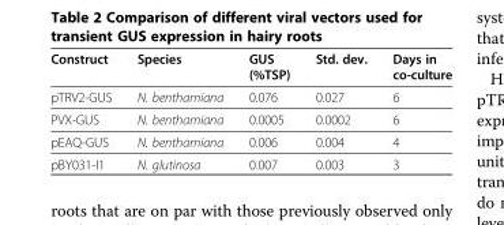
<table><thead><tr><td>Construct</td><td>Species</td><td>GUS (%TSP)</td><td>Std. dev.</td><td>Days in co-culture</td></tr></thead><tbody><tr><td>pTRV2-GUS</td><td>N. benthamiana</td><td>0.076</td><td>0.027</td><td>6</td></tr><tr><td>PVX-GUS</td><td>N. benthamiana</td><td>0.0005</td><td>0.0002</td><td>6</td></tr><tr><td>pEAQ-GUS</td><td>N. benthamiana</td><td>0.006</td><td>0.004</td><td>4</td></tr><tr><td>pBY031-I1</td><td>N. glutinosa</td><td>0.007</td><td>0.003</td><td>3</td></tr></tbody></table>